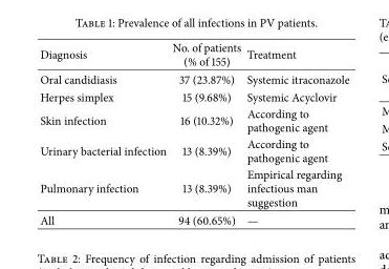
<table><thead><tr><td>Diagnosis</td><td>No. of patients (% of 155)</td><td>Treatment</td></tr></thead><tbody><tr><td>Oral candidiasis</td><td>37 (23.87%)</td><td>Systemic itraconazole</td></tr><tr><td>Herpes simplex</td><td>15 (9.68%)</td><td>Systemic Acyclovir</td></tr><tr><td>Skin infection</td><td>16 (10.32%)</td><td>According to pathogenic agent</td></tr><tr><td>Urinary bacterial infection</td><td>13 (8.39%)</td><td>According to pathogenic agent</td></tr><tr><td>Pulmonary infection</td><td>13 (8.39%)</td><td>Empirical regarding infectious man suggestion</td></tr><tr><td>All</td><td>94 (60.65%)</td><td>—</td></tr></tbody></table>